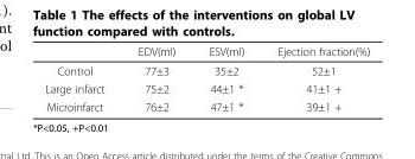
<table><thead><tr><td></td><td>EDV(ml)</td><td>ESV(ml)</td><td>Ejection fraction(%)</td></tr></thead><tbody><tr><td>Control</td><td>77±3</td><td>35±2</td><td>52±1</td></tr><tr><td>Large infarct</td><td>75±2</td><td>44±1 *</td><td>41±1 +</td></tr><tr><td>Microinfarct</td><td>76±2</td><td>47±1 *</td><td>39±1 +</td></tr></tbody></table>